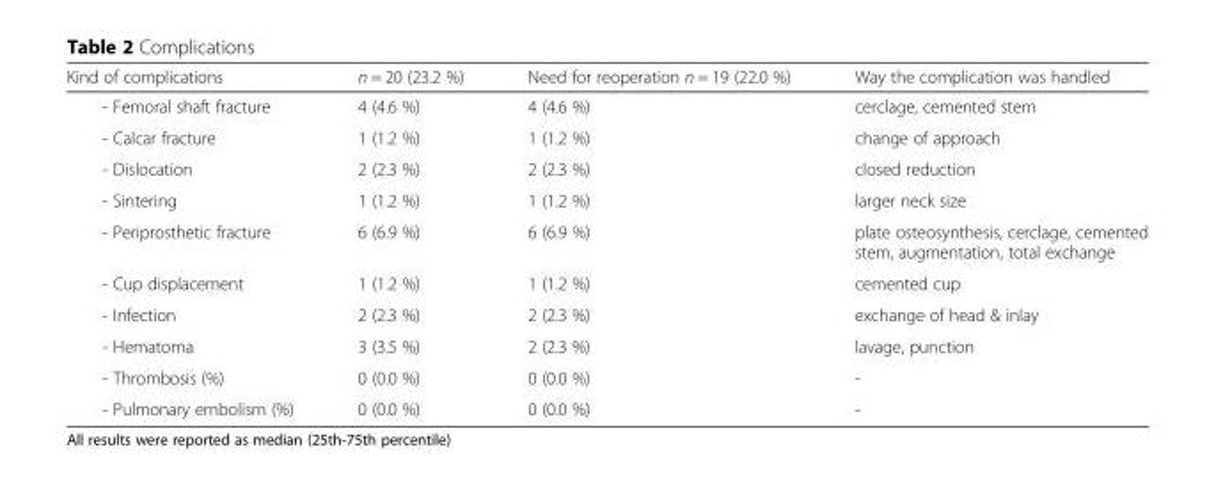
<table><thead><tr><td>Kind of complications</td><td>n = 20 (23.2 %)</td><td>Need for reoperation n = 19 (22.0 %)</td><td>Way the complication was handled</td></tr></thead><tbody><tr><td>- Femoral shaft fracture</td><td>4 (4.6 %)</td><td>4 (4.6 %)</td><td>cerclage, cemented stem</td></tr><tr><td>- Calcar fracture</td><td>1 (1.2 %)</td><td>1 (1.2 %)</td><td>change of approach</td></tr><tr><td>- Dislocation</td><td>2 (2.3 %)</td><td>2 (2.3 %)</td><td>closed reduction</td></tr><tr><td>- Sintering</td><td>1 (1.2 %)</td><td>1 (1.2 %)</td><td>larger neck size</td></tr><tr><td>- Periprosthetic fracture</td><td>6 (6.9 %)</td><td>6 (6.9 %)</td><td>plate osteosynthesis, cerclage, cemented stem, augmentation, total exchange</td></tr><tr><td>- Cup displacement</td><td>1 (1.2 %)</td><td>1 (1.2 %)</td><td>cemented cup</td></tr><tr><td>- Infection</td><td>2 (2.3 %)</td><td>2 (2.3 %)</td><td>exchange of head &amp; inlay</td></tr><tr><td>- Hematoma</td><td>3 (3.5 %)</td><td>2 (2.3 %)</td><td>lavage, punction</td></tr><tr><td>- Thrombosis (%)</td><td>0 (0.0 %)</td><td>0 (0.0 %)</td><td>-</td></tr><tr><td>- Pulmonary embolism (%)</td><td>0 (0.0 %)</td><td>0 (0.0 %)</td><td>-</td></tr></tbody></table>